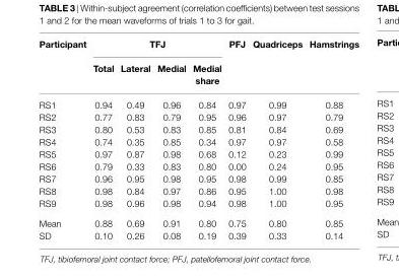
<table><thead><tr><td rowspan="2">Participant</td><td colspan="4">TFJ</td><td rowspan="2">PFJ</td><td rowspan="2">Quadriceps</td><td rowspan="2">Hamstrings</td></tr><tr><td>Total</td><td>Lateral</td><td>Medial</td><td>Medial share</td></tr></thead><tbody><tr><td>RS1</td><td>0.94</td><td>0.49</td><td>0.96</td><td>0.84</td><td>0.97</td><td>0.99</td><td>0.88</td></tr><tr><td>RS2</td><td>0.77</td><td>0.83</td><td>0.79</td><td>0.95</td><td>0.96</td><td>0.97</td><td>0.79</td></tr><tr><td>RS3</td><td>0.80</td><td>0.53</td><td>0.83</td><td>0.85</td><td>0.81</td><td>0.84</td><td>0.69</td></tr><tr><td>RS4</td><td>0.74</td><td>0.35</td><td>0.85</td><td>0.34</td><td>0.97</td><td>0.97</td><td>0.58</td></tr><tr><td>RS5</td><td>0.97</td><td>0.87</td><td>0.98</td><td>0.68</td><td>0.12</td><td>0.23</td><td>0.99</td></tr><tr><td>RS6</td><td>0.79</td><td>0.33</td><td>0.83</td><td>0.80</td><td>0.00</td><td>0.24</td><td>0.95</td></tr><tr><td>RS7</td><td>0.96</td><td>0.95</td><td>0.98</td><td>0.95</td><td>0.98</td><td>0.99</td><td>0.85</td></tr><tr><td>RS8</td><td>0.98</td><td>0.84</td><td>0.97</td><td>0.86</td><td>0.95</td><td>1.00</td><td>0.98</td></tr><tr><td>RS9</td><td>0.98</td><td>0.96</td><td>0.98</td><td>0.94</td><td>0.98</td><td>1.00</td><td>0.95</td></tr><tr><td>Mean</td><td>0.88</td><td>0.69</td><td>0.91</td><td>0.80</td><td>0.75</td><td>0.80</td><td>0.85</td></tr><tr><td>SD</td><td>0.10</td><td>0.26</td><td>0.08</td><td>0.19</td><td>0.39</td><td>0.33</td><td>0.14</td></tr></tbody></table>